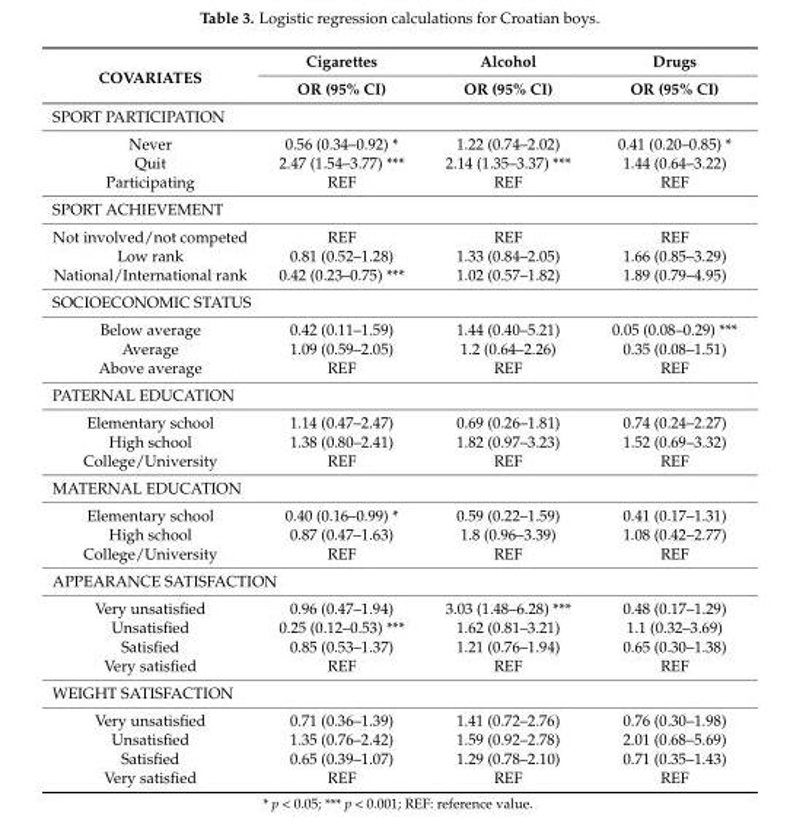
<table><thead><tr><td rowspan="2">COVARIATES</td><td rowspan="2">Cigarettes OR (95% CI)</td><td rowspan="2">Alcohol OR (95% CI)</td><td rowspan="2">Drugs OR (95% CI)</td></tr><tr></tr></thead><tbody><tr><td colspan="4">SPORT PARTICIPATION</td></tr><tr><td>Never</td><td>0.56 (0.34–0.92) *</td><td>1.22 (0.74–2.02)</td><td>0.41 (0.20–0.85) *</td></tr><tr><td>Quit</td><td>2.47 (1.54–3.77) ***</td><td>2.14 (1.35–3.37) ***</td><td>1.44 (0.64–3.22)</td></tr><tr><td>Participating</td><td>REF</td><td>REF</td><td>REF</td></tr><tr><td colspan="4">SPORT ACHIEVEMENT</td></tr><tr><td>Not involved/not competed</td><td>REF</td><td>REF</td><td>REF</td></tr><tr><td>Low rank</td><td>0.81 (0.52–1.28)</td><td>1.33 (0.84–2.05)</td><td>1.66 (0.85–3.29)</td></tr><tr><td>National/International rank</td><td>0.42 (0.23–0.75) ***</td><td>1.02 (0.57–1.82)</td><td>1.89 (0.79–4.95)</td></tr><tr><td colspan="4">SOCIOECONOMIC STATUS</td></tr><tr><td>Below average</td><td>0.42 (0.11–1.59)</td><td>1.44 (0.40–5.21)</td><td>0.05 (0.08–0.29) ***</td></tr><tr><td>Average</td><td>1.09 (0.59–2.05)</td><td>1.2 (0.64–2.26)</td><td>0.35 (0.08–1.51)</td></tr><tr><td>Above average</td><td>REF</td><td>REF</td><td>REF</td></tr><tr><td colspan="4">PATERNAL EDUCATION</td></tr><tr><td>Elementary school</td><td>1.14 (0.47–2.47)</td><td>0.69 (0.26–1.81)</td><td>0.74 (0.24–2.27)</td></tr><tr><td>High school</td><td>1.38 (0.80–2.41)</td><td>1.82 (0.97–3.23)</td><td>1.52 (0.69–3.32)</td></tr><tr><td>College/University</td><td>REF</td><td>REF</td><td>REF</td></tr><tr><td colspan="4">MATERNAL EDUCATION</td></tr><tr><td>Elementary school</td><td>0.40 (0.16–0.99) *</td><td>0.59 (0.22–1.59)</td><td>0.41 (0.17–1.31)</td></tr><tr><td>High school</td><td>0.87 (0.47–1.63)</td><td>1.8 (0.96–3.39)</td><td>1.08 (0.42–2.77)</td></tr><tr><td>College/University</td><td>REF</td><td>REF</td><td>REF</td></tr><tr><td colspan="4">APPEARANCE SATISFACTION</td></tr><tr><td>Very unsatisfied</td><td>0.96 (0.47–1.94)</td><td>3.03 (1.48–6.28) ***</td><td>0.48 (0.17–1.29)</td></tr><tr><td>Unsatisfied</td><td>0.25 (0.12–0.53) ***</td><td>1.62 (0.81–3.21)</td><td>1.1 (0.32–3.69)</td></tr><tr><td>Satisfied</td><td>0.85 (0.53–1.37)</td><td>1.21 (0.76–1.94)</td><td>0.65 (0.30–1.38)</td></tr><tr><td>Very satisfied</td><td>REF</td><td>REF</td><td>REF</td></tr><tr><td colspan="4">WEIGHT SATISFACTION</td></tr><tr><td>Very unsatisfied</td><td>0.71 (0.36–1.39)</td><td>1.41 (0.72–2.76)</td><td>0.76 (0.30–1.98)</td></tr><tr><td>Unsatisfied</td><td>1.35 (0.76–2.42)</td><td>1.59 (0.92–2.78)</td><td>2.01 (0.68–5.69)</td></tr><tr><td>Satisfied</td><td>0.65 (0.39–1.07)</td><td>1.29 (0.78–2.10)</td><td>0.71 (0.35–1.43)</td></tr><tr><td>Very satisfied</td><td>REF</td><td>REF</td><td>REF</td></tr></tbody></table>